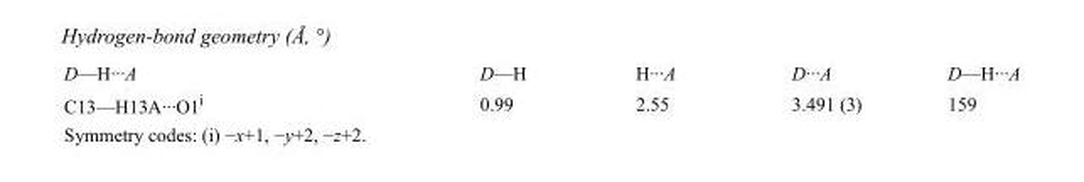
<table><tbody><tr><td>D—H···A</td><td>D—H</td><td>H···A</td><td>D···A</td><td>D—H···A</td></tr><tr><td>C13—H13A···O1<sup>i</sup></td><td>0.99</td><td>2.55</td><td>3.491 (3)</td><td>159</td></tr></tbody></table>